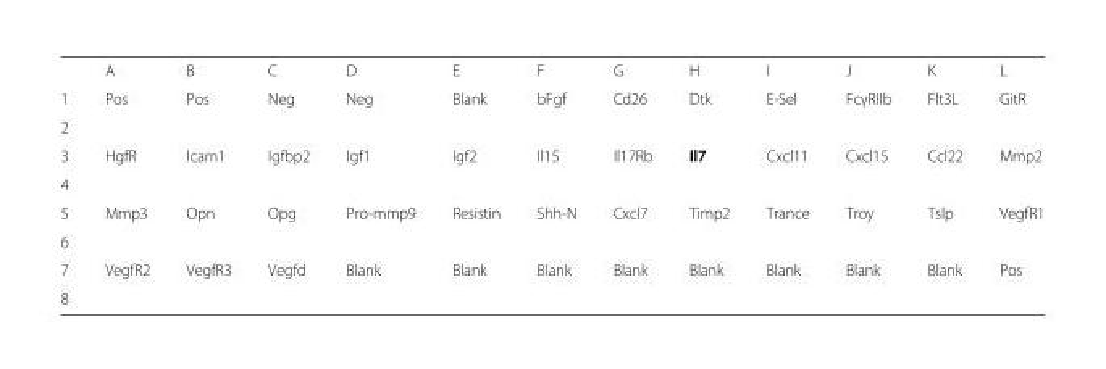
<table><thead><tr><td></td><td>A</td><td>B</td><td>C</td><td>D</td><td>E</td><td>F</td><td>G</td><td>H</td><td>I</td><td>J</td><td>K</td><td>L</td></tr></thead><tbody><tr><td>1</td><td rowspan="2">Pos</td><td rowspan="2">Pos</td><td rowspan="2">Neg</td><td rowspan="2">Neg</td><td rowspan="2">Blank</td><td rowspan="2">bFgf</td><td rowspan="2">Cd26</td><td rowspan="2">Dtk</td><td rowspan="2">E-Sel</td><td rowspan="2">FcγRIIb</td><td rowspan="2">Flt3L</td><td rowspan="2">GitR</td></tr><tr><td>2</td></tr><tr><td>3</td><td rowspan="2">HgfR</td><td rowspan="2">Icam1</td><td rowspan="2">Igfbp2</td><td rowspan="2">Igf1</td><td rowspan="2">Igf2</td><td rowspan="2">Il15</td><td rowspan="2">Il17Rb</td><td rowspan="2">Il7</td><td rowspan="2">Cxcl11</td><td rowspan="2">Cxcl15</td><td rowspan="2">Ccl22</td><td rowspan="2">Mmp2</td></tr><tr><td>4</td></tr><tr><td>5</td><td rowspan="2">Mmp3</td><td rowspan="2">Opn</td><td rowspan="2">Opg</td><td rowspan="2">Pro-mmp9</td><td rowspan="2">Resistin</td><td rowspan="2">Shh-N</td><td rowspan="2">Cxcl7</td><td rowspan="2">Timp2</td><td rowspan="2">Trance</td><td rowspan="2">Troy</td><td rowspan="2">Tslp</td><td rowspan="2">VegfR1</td></tr><tr><td>6</td></tr><tr><td>7</td><td rowspan="2">VegfR2</td><td rowspan="2">VegfR3</td><td rowspan="2">Vegfd</td><td rowspan="2">Blank</td><td rowspan="2">Blank</td><td rowspan="2">Blank</td><td rowspan="2">Blank</td><td rowspan="2">Blank</td><td rowspan="2">Blank</td><td rowspan="2">Blank</td><td rowspan="2">Blank</td><td rowspan="2">Pos</td></tr><tr><td>8</td></tr></tbody></table>